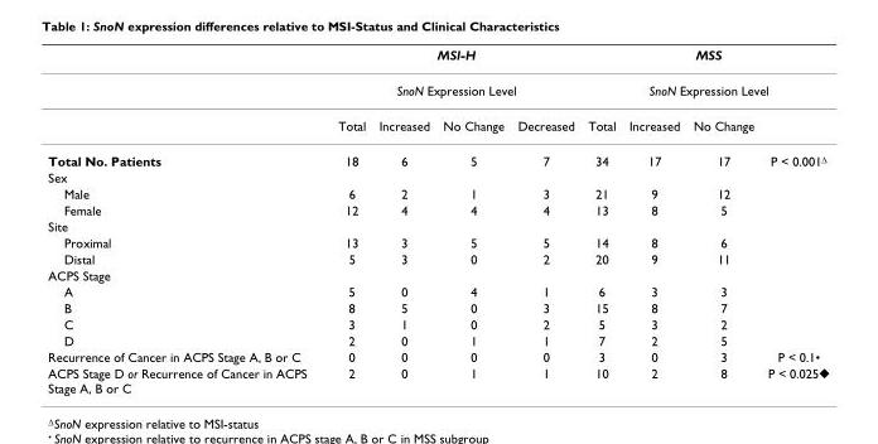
<table><thead><tr><td rowspan="3"></td><td rowspan="2" colspan="4">MSI-H SnoN Expression Level</td><td rowspan="2" colspan="4">MSS SnoN Expression Level</td></tr><tr></tr><tr><td>Total</td><td>Increased</td><td>No Change</td><td>Decreased</td><td>Total</td><td>Increased</td><td>No Change</td><td></td></tr></thead><tbody><tr><td>Total No. Patients</td><td>18</td><td>6</td><td>5</td><td>7</td><td>34</td><td>17</td><td>17</td><td>P &lt; 0.001Δ</td></tr><tr><td colspan="9">Sex</td></tr><tr><td>Male</td><td>6</td><td>2</td><td>1</td><td>3</td><td>21</td><td>9</td><td>12</td><td></td></tr><tr><td>Female</td><td>12</td><td>4</td><td>4</td><td>4</td><td>13</td><td>8</td><td>5</td><td></td></tr><tr><td colspan="9">Site</td></tr><tr><td>Proximal</td><td>13</td><td>3</td><td>5</td><td>5</td><td>14</td><td>8</td><td>6</td><td></td></tr><tr><td>Distal</td><td>5</td><td>3</td><td>0</td><td>2</td><td>20</td><td>9</td><td>11</td><td></td></tr><tr><td colspan="9">ACPS Stage</td></tr><tr><td>A</td><td>5</td><td>0</td><td>4</td><td>1</td><td>6</td><td>3</td><td>3</td><td></td></tr><tr><td>B</td><td>8</td><td>5</td><td>0</td><td>3</td><td>15</td><td>8</td><td>7</td><td></td></tr><tr><td>C</td><td>3</td><td>1</td><td>0</td><td>2</td><td>5</td><td>3</td><td>2</td><td></td></tr><tr><td>D</td><td>2</td><td>0</td><td>1</td><td>1</td><td>7</td><td>2</td><td>5</td><td></td></tr><tr><td>Recurrence of Cancer in ACPS Stage A, B or C</td><td>0</td><td>0</td><td>0</td><td>0</td><td>3</td><td>0</td><td>3</td><td>P &lt; 0.1•</td></tr><tr><td>ACPS Stage D or Recurrence of Cancer in ACPS Stage A, B or C</td><td>2</td><td>0</td><td>1</td><td>1</td><td>10</td><td>2</td><td>8</td><td>P &lt; 0.025◆</td></tr></tbody></table>